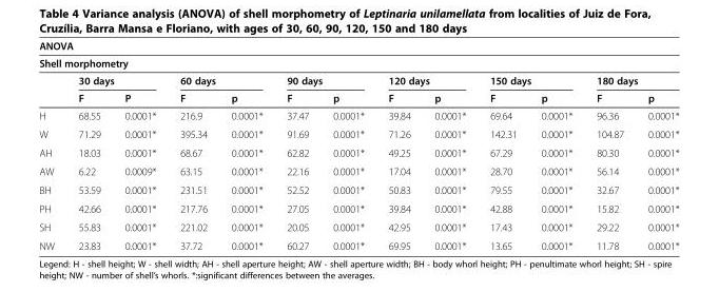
<table><thead><tr><td rowspan="2" colspan="13">ANOVA Shell morphometry</td></tr><tr></tr><tr><td rowspan="2"></td><td colspan="2">30 days</td><td colspan="2">60 days</td><td colspan="2">90 days</td><td colspan="2">120 days</td><td colspan="2">150 days</td><td colspan="2">180 days</td></tr><tr><td>F</td><td>P</td><td>F</td><td>p</td><td>F</td><td>p</td><td>F</td><td>p</td><td>F</td><td>p</td><td>F</td><td>p</td></tr></thead><tbody><tr><td>H</td><td>68.55</td><td>0.0001*</td><td>216.9</td><td>0.0001*</td><td>37.47</td><td>0.0001*</td><td>39.84</td><td>0.0001*</td><td>69.64</td><td>0.0001*</td><td>96.36</td><td>0.0001*</td></tr><tr><td>W</td><td>71.29</td><td>0.0001*</td><td>395.34</td><td>0.0001*</td><td>91.69</td><td>0.0001*</td><td>71.26</td><td>0.0001*</td><td>142.31</td><td>0.0001*</td><td>104.87</td><td>0.0001*</td></tr><tr><td>AH</td><td>18.03</td><td>0.0001*</td><td>68.67</td><td>0.0001*</td><td>62.82</td><td>0.0001*</td><td>49.25</td><td>0.0001*</td><td>67.29</td><td>0.0001*</td><td>80.30</td><td>0.0001*</td></tr><tr><td>AW</td><td>6.22</td><td>0.0009*</td><td>63.15</td><td>0.0001*</td><td>22.16</td><td>0.0001*</td><td>17.04</td><td>0.0001*</td><td>28.70</td><td>0.0001*</td><td>56.14</td><td>0.0001*</td></tr><tr><td>BH</td><td>53.59</td><td>0.0001*</td><td>231.51</td><td>0.0001*</td><td>52.52</td><td>0.0001*</td><td>50.83</td><td>0.0001*</td><td>79.55</td><td>0.0001*</td><td>32.67</td><td>0.0001*</td></tr><tr><td>PH</td><td>42.66</td><td>0.0001*</td><td>217.76</td><td>0.0001*</td><td>27.05</td><td>0.0001*</td><td>39.84</td><td>0.0001*</td><td>42.88</td><td>0.0001*</td><td>15.82</td><td>0.0001*</td></tr><tr><td>SH</td><td>55.83</td><td>0.0001*</td><td>221.02</td><td>0.0001*</td><td>20.05</td><td>0.0001*</td><td>42.95</td><td>0.0001*</td><td>17.43</td><td>0.0001*</td><td>29.22</td><td>0.0001*</td></tr><tr><td>NW</td><td>23.83</td><td>0.0001*</td><td>37.72</td><td>0.0001*</td><td>60.27</td><td>0.0001*</td><td>69.95</td><td>0.0001*</td><td>13.65</td><td>0.0001*</td><td>11.78</td><td>0.0001*</td></tr></tbody></table>